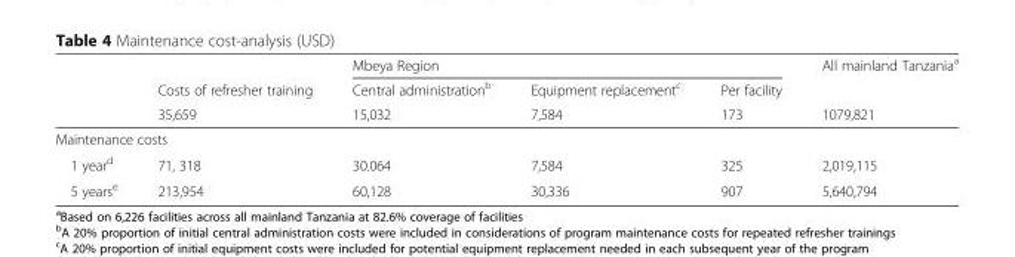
<table><thead><tr><td rowspan="3"></td><td rowspan="3">Costs of refresher training 35,659</td><td colspan="3">Mbeya Region</td><td rowspan="3">All mainland Tanzania<sup>a</sup> 1079,821</td></tr><tr><td rowspan="2">Central administration<sup>b</sup> 15,032</td><td rowspan="2">Equipment replacement<sup>c</sup> 7,584</td><td rowspan="2">Per facility 173</td></tr><tr></tr></thead><tbody><tr><td colspan="6">Maintenance costs</td></tr><tr><td>1 year<sup>d</sup></td><td>71, 318</td><td>30.064</td><td>7,584</td><td>325</td><td>2,019,115</td></tr><tr><td>5 years<sup>e</sup></td><td>213,954</td><td>60,128</td><td>30,336</td><td>907</td><td>5,640,794</td></tr></tbody></table>